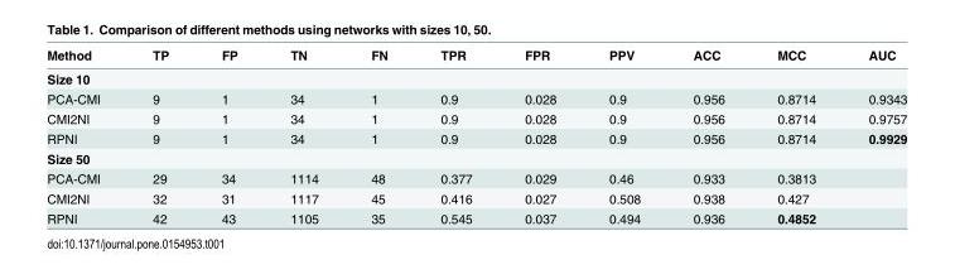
<table><thead><tr><td>Method</td><td>TP</td><td>FP</td><td>TN</td><td>FN</td><td>TPR</td><td>FPR</td><td>PPV</td><td>ACC</td><td>MCC</td><td>AUC</td></tr></thead><tbody><tr><td colspan="11">Size 10</td></tr><tr><td>PCA-CMI</td><td>9</td><td>1</td><td>34</td><td>1</td><td>0.9</td><td>0.028</td><td>0.9</td><td>0.956</td><td>0.8714</td><td>0.9343</td></tr><tr><td>CMI2NI</td><td>9</td><td>1</td><td>34</td><td>1</td><td>0.9</td><td>0.028</td><td>0.9</td><td>0.956</td><td>0.8714</td><td>0.9757</td></tr><tr><td>RPNI</td><td>9</td><td>1</td><td>34</td><td>1</td><td>0.9</td><td>0.028</td><td>0.9</td><td>0.956</td><td>0.8714</td><td>0.9929</td></tr><tr><td colspan="11">Size 50</td></tr><tr><td>PCA-CMI</td><td>29</td><td>34</td><td>1114</td><td>48</td><td>0.377</td><td>0.029</td><td>0.46</td><td>0.933</td><td>0.3813</td><td></td></tr><tr><td>CMI2NI</td><td>32</td><td>31</td><td>1117</td><td>45</td><td>0.416</td><td>0.027</td><td>0.508</td><td>0.938</td><td>0.427</td><td></td></tr><tr><td>RPNI</td><td>42</td><td>43</td><td>1105</td><td>35</td><td>0.545</td><td>0.037</td><td>0.494</td><td>0.936</td><td>0.4852</td><td></td></tr></tbody></table>